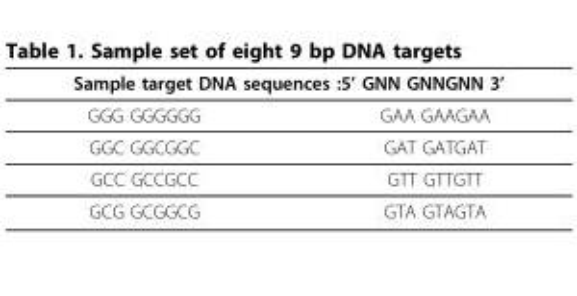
<table><thead><tr><td colspan="2">Sample target DNA sequences :5’ GNN GNNGNN 3’</td></tr><tr><td>GGG GGGGGG</td><td>GAA GAAGAA</td></tr></thead><tbody><tr><td>GGC GGCGGC</td><td>GAT GATGAT</td></tr><tr><td>GCC GCCGCC</td><td>GTT GTTGTT</td></tr><tr><td>GCG GCGGCG</td><td>GTA GTAGTA</td></tr></tbody></table>